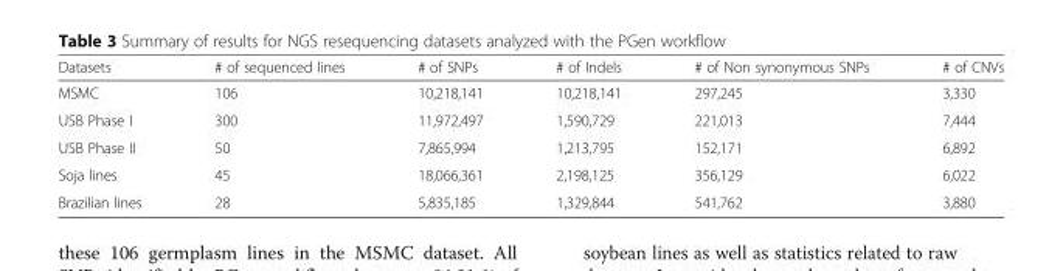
<table><thead><tr><td>Datasets</td><td># of sequenced lines</td><td># of SNPs</td><td># of Indels</td><td># of Non synonymous SNPs</td><td># of CNVs</td></tr></thead><tbody><tr><td>MSMC</td><td>106</td><td>10,218,141</td><td>10,218,141</td><td>297,245</td><td>3,330</td></tr><tr><td>USB Phase I</td><td>300</td><td>11,972,497</td><td>1,590,729</td><td>221,013</td><td>7,444</td></tr><tr><td>USB Phase II</td><td>50</td><td>7,865,994</td><td>1,213,795</td><td>152,171</td><td>6,892</td></tr><tr><td>Soja lines</td><td>45</td><td>18,066,361</td><td>2,198,125</td><td>356,129</td><td>6,022</td></tr><tr><td>Brazilian lines</td><td>28</td><td>5,835,185</td><td>1,329,844</td><td>541,762</td><td>3,880</td></tr></tbody></table>